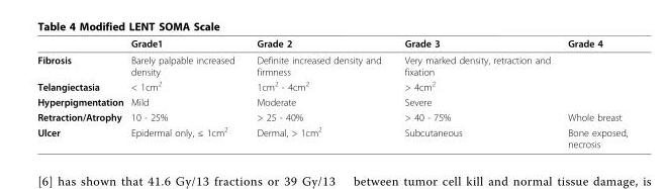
<table><thead><tr><td></td><td>Grade1</td><td>Grade 2</td><td>Grade 3</td><td>Grade 4</td></tr></thead><tbody><tr><td>Fibrosis</td><td>Barely palpable increased density</td><td>Definite increased density and firmness</td><td>Very marked density, retraction and fixation</td><td></td></tr><tr><td>Telangiectasia</td><td>&lt; 1cm<sup>2</sup></td><td>1cm<sup>2</sup> - 4cm<sup>2</sup></td><td>&gt; 4cm<sup>2</sup></td><td></td></tr><tr><td>Hyperpigmentation</td><td>Mild</td><td>Moderate</td><td>Severe</td><td></td></tr><tr><td>Retraction/Atrophy</td><td>10 - 25%</td><td>&gt; 25 - 40%</td><td>&gt; 40 - 75%</td><td>Whole breast</td></tr><tr><td>Ulcer</td><td>Epidermal only, ≤ 1cm<sup>2</sup></td><td>Dermal, &gt; 1cm<sup>2</sup></td><td>Subcutaneous</td><td>Bone exposed, necrosis</td></tr></tbody></table>